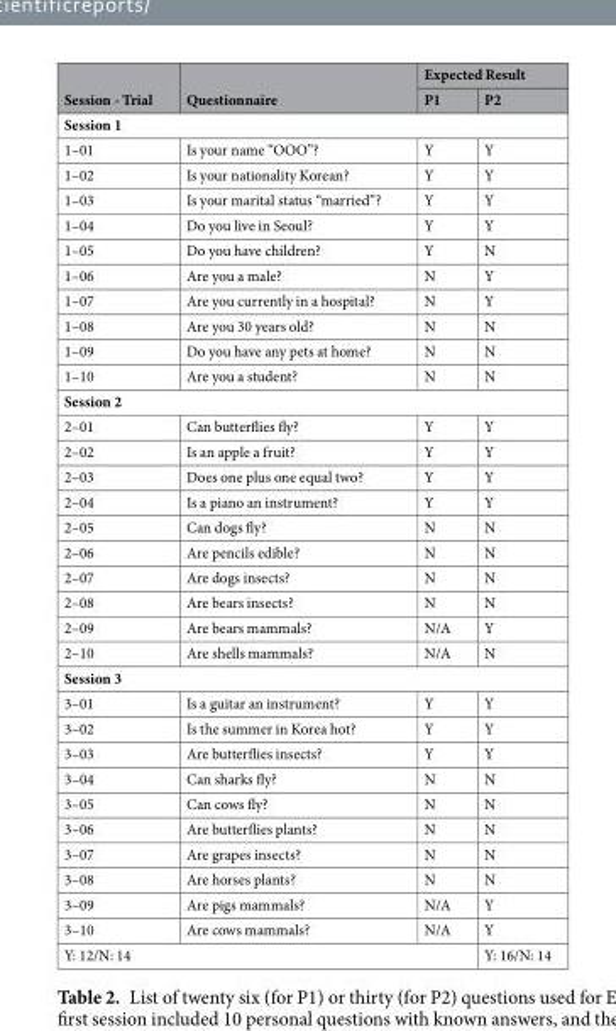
<table><thead><tr><td rowspan="2">Session - Trial</td><td rowspan="2">Questionnaire</td><td colspan="2">Expected Result</td></tr><tr><td>P1</td><td>P2</td></tr></thead><tbody><tr><td colspan="4">Session 1</td></tr><tr><td>1–01</td><td>Is your name “OOO”?</td><td>Y</td><td>Y</td></tr><tr><td>1–02</td><td>Is your nationality Korean?</td><td>Y</td><td>Y</td></tr><tr><td>1–03</td><td>Is your marital status “married”?</td><td>Y</td><td>Y</td></tr><tr><td>1–04</td><td>Do you live in Seoul?</td><td>Y</td><td>Y</td></tr><tr><td>1–05</td><td>Do you have children?</td><td>Y</td><td>N</td></tr><tr><td>1–06</td><td>Are you a male?</td><td>N</td><td>Y</td></tr><tr><td>1–07</td><td>Are you currently in a hospital?</td><td>N</td><td>Y</td></tr><tr><td>1–08</td><td>Are you 30 years old?</td><td>N</td><td>N</td></tr><tr><td>1–09</td><td>Do you have any pets at home?</td><td>N</td><td>N</td></tr><tr><td>1–10</td><td>Are you a student?</td><td>N</td><td>N</td></tr><tr><td colspan="4">Session 2</td></tr><tr><td>2–01</td><td>Can butterflies fly?</td><td>Y</td><td>Y</td></tr><tr><td>2–02</td><td>Is an apple a fruit?</td><td>Y</td><td>Y</td></tr><tr><td>2–03</td><td>Does one plus one equal two?</td><td>Y</td><td>Y</td></tr><tr><td>2–04</td><td>Is a piano an instrument?</td><td>Y</td><td>Y</td></tr><tr><td>2–05</td><td>Can dogs fly?</td><td>N</td><td>N</td></tr><tr><td>2–06</td><td>Are pencils edible?</td><td>N</td><td>N</td></tr><tr><td>2–07</td><td>Are dogs insects?</td><td>N</td><td>N</td></tr><tr><td>2–08</td><td>Are bears insects?</td><td>N</td><td>N</td></tr><tr><td>2–09</td><td>Are bears mammals?</td><td>N/A</td><td>Y</td></tr><tr><td>2–10</td><td>Are shells mammals?</td><td>N/A</td><td>N</td></tr><tr><td colspan="4">Session 3</td></tr><tr><td>3–01</td><td>Is a guitar an instrument?</td><td>Y</td><td>Y</td></tr><tr><td>3–02</td><td>Is the summer in Korea hot?</td><td>Y</td><td>Y</td></tr><tr><td>3–03</td><td>Are butterflies insects?</td><td>Y</td><td>Y</td></tr><tr><td>3–04</td><td>Can sharks fly?</td><td>N</td><td>N</td></tr><tr><td>3–05</td><td>Can cows fly?</td><td>N</td><td>N</td></tr><tr><td>3–06</td><td>Are butterflies plants?</td><td>N</td><td>N</td></tr><tr><td>3–07</td><td>Are grapes insects?</td><td>N</td><td>N</td></tr><tr><td>3–08</td><td>Are horses plants?</td><td>N</td><td>N</td></tr><tr><td>3–09</td><td>Are pigs mammals?</td><td>N/A</td><td>Y</td></tr><tr><td>3–10</td><td>Are cows mammals?</td><td>N/A</td><td>Y</td></tr><tr><td colspan="3">Y: 12/N: 14</td><td>Y: 16/N: 14</td></tr></tbody></table>